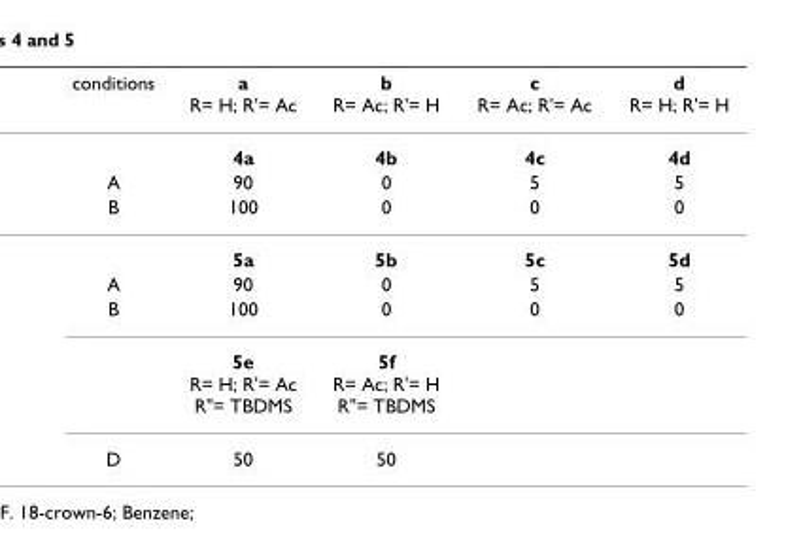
<table><thead><tr><td>conditions</td><td>a R= H; R&#x27;= Ac</td><td>b R= Ac; R&#x27;= H</td><td>c R= Ac; R&#x27;= Ac</td><td>d R= H; R&#x27;= H</td></tr></thead><tbody><tr><td></td><td>4a</td><td>4b</td><td>4c</td><td>4d</td></tr><tr><td>A</td><td>90</td><td>0</td><td>5</td><td>5</td></tr><tr><td rowspan="2">B</td><td>100</td><td>0</td><td>0</td><td>0</td></tr><tr><td>5a</td><td>5b</td><td>5c</td><td>5d</td></tr><tr><td>A</td><td>90</td><td>0</td><td>5</td><td>5</td></tr><tr><td rowspan="2">B</td><td>100</td><td>0</td><td>0</td><td>0</td></tr><tr><td>5e R= H; R&#x27;= Ac R&quot;= TBDMS</td><td>5f R= Ac; R&#x27;= H R&quot;= TBDMS</td><td></td><td></td></tr><tr><td>D</td><td>50</td><td>50</td><td></td><td></td></tr></tbody></table>